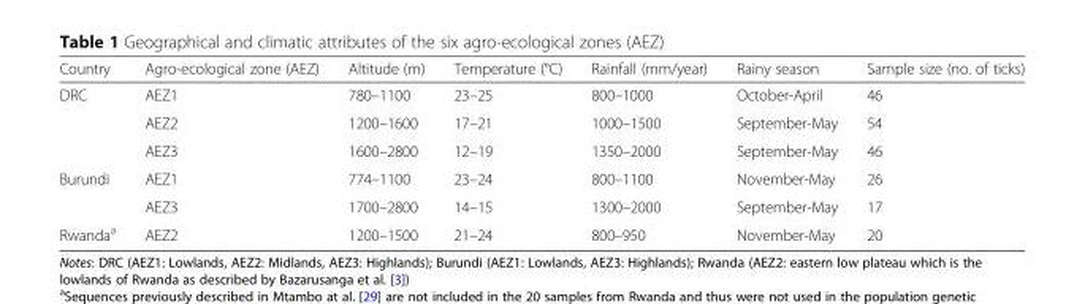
<table><thead><tr><td>Country</td><td>Agro-ecological zone (AEZ)</td><td>Altitude (m)</td><td>Temperature (°C)</td><td>Rainfall (mm/year)</td><td>Rainy season</td><td>Sample size (no. of ticks)</td></tr></thead><tbody><tr><td rowspan="3">DRC</td><td>AEZ1</td><td>780–1100</td><td>23–25</td><td>800–1000</td><td>October-April</td><td>46</td></tr><tr><td>AEZ2</td><td>1200–1600</td><td>17–21</td><td>1000–1500</td><td>September-May</td><td>54</td></tr><tr><td>AEZ3</td><td>1600–2800</td><td>12–19</td><td>1350–2000</td><td>September-May</td><td>46</td></tr><tr><td rowspan="2">Burundi</td><td>AEZ1</td><td>774–1100</td><td>23–24</td><td>800–1100</td><td>November-May</td><td>26</td></tr><tr><td>AEZ3</td><td>1700–2800</td><td>14–15</td><td>1300–2000</td><td>September-May</td><td>17</td></tr><tr><td>Rwanda<sup>a</sup></td><td>AEZ2</td><td>1200–1500</td><td>21–24</td><td>800–950</td><td>November-May</td><td>20</td></tr></tbody></table>